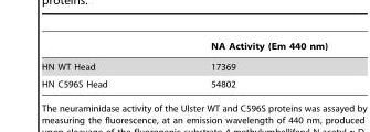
<table><thead><tr><td></td><td>NA Activity (Em 440 nm)</td></tr></thead><tbody><tr><td>HN WT Head</td><td>17369</td></tr><tr><td>HN C596S Head</td><td>54802</td></tr></tbody></table>